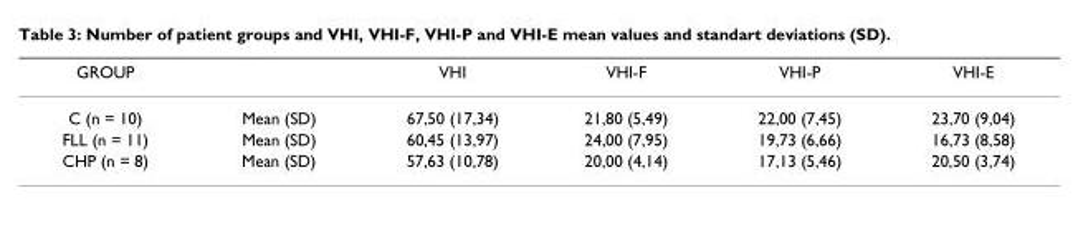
<table><thead><tr><td>GROUP</td><td></td><td>VHI</td><td>VHI-F</td><td>VHI-P</td><td>VHI-E</td></tr></thead><tbody><tr><td>C (n = 10)</td><td>Mean (SD)</td><td>67,50 (17,34)</td><td>21,80 (5,49)</td><td>22,00 (7,45)</td><td>23,70 (9,04)</td></tr><tr><td>FLL (n = 11)</td><td>Mean (SD)</td><td>60,45 (13,97)</td><td>24,00 (7,95)</td><td>19,73 (6,66)</td><td>16,73 (8,58)</td></tr><tr><td>CHP (n = 8)</td><td>Mean (SD)</td><td>57,63 (10,78)</td><td>20,00 (4,14)</td><td>17,13 (5,46)</td><td>20,50 (3,74)</td></tr></tbody></table>